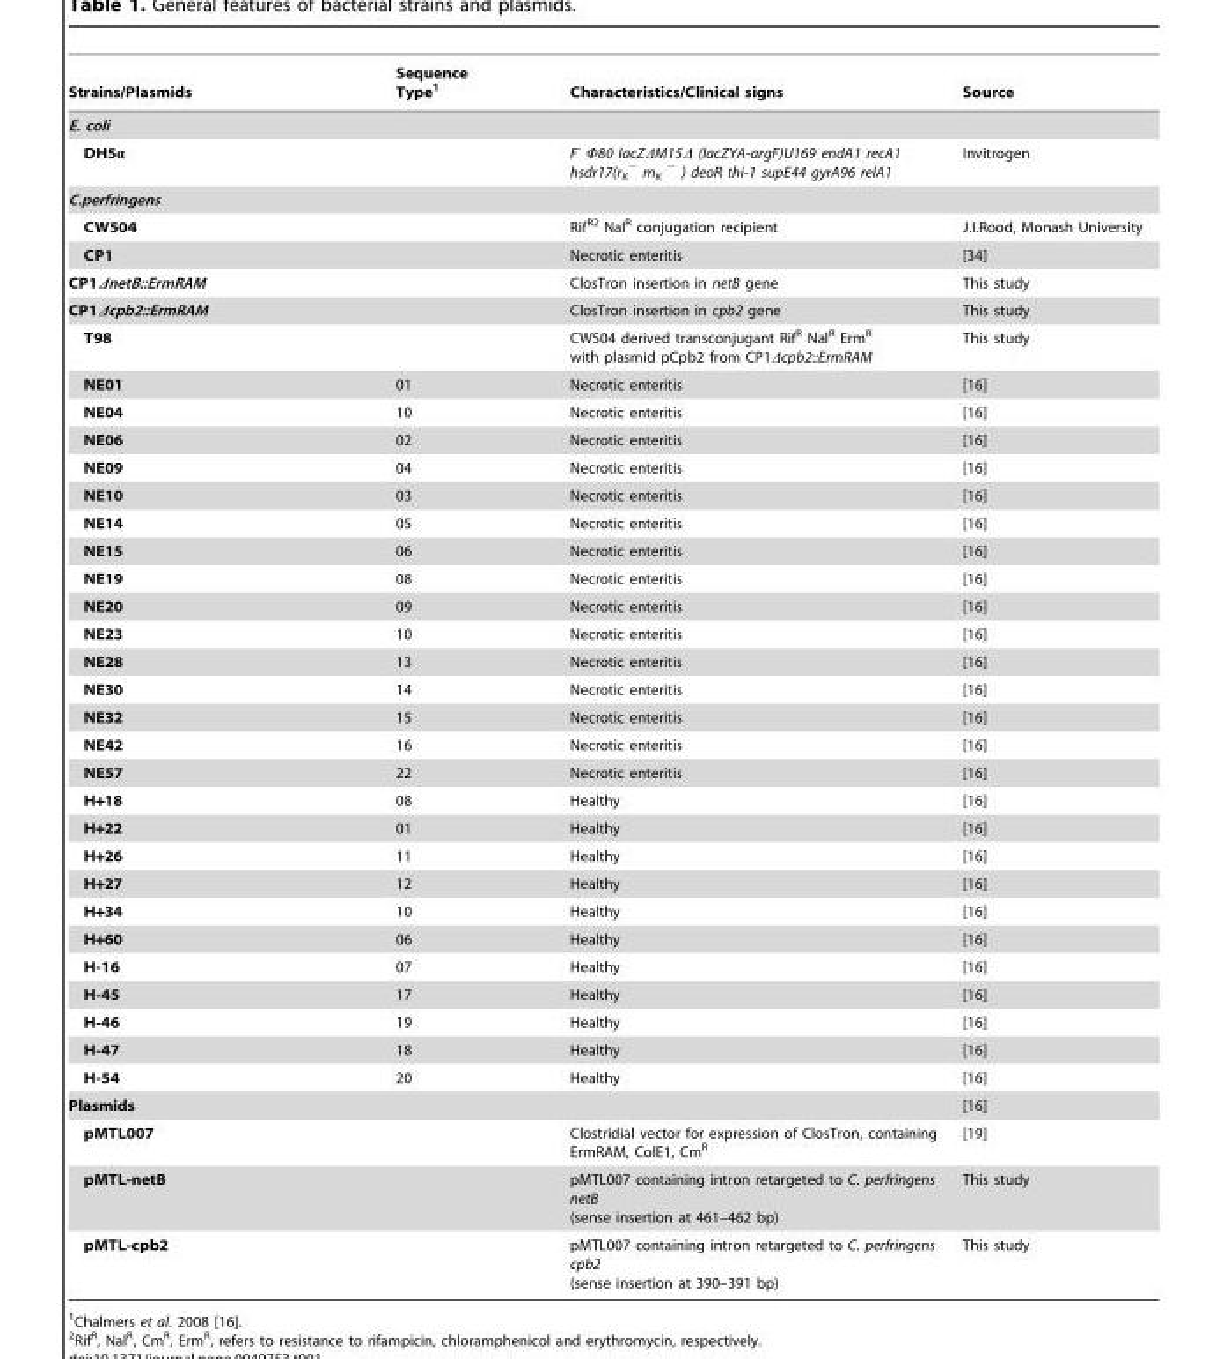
<table><thead><tr><td>Strains/Plasmids</td><td>Sequence Type<sup>1</sup></td><td>Characteristics/Clinical signs</td><td>Source</td></tr></thead><tbody><tr><td colspan="4">E. coli</td></tr><tr><td>DH5α</td><td></td><td>F<sup>-</sup> Φ80 lacZΔM15Δ (lacZYA-argF)U169 endA1 recA1 hsdr17(r<sub>K</sub> <sup>−</sup> m<sub>K</sub> <sup>−</sup> ) deoR thi-1 supE44 gyrA96 relA1</td><td>Invitrogen</td></tr><tr><td colspan="4">C.perfringens</td></tr><tr><td>CW504</td><td></td><td>Rif<sup>R2</sup> Nal<sup>R</sup> conjugation recipient</td><td>J.I.Rood, Monash University</td></tr><tr><td>CP1</td><td></td><td>Necrotic enteritis</td><td>[34]</td></tr><tr><td>CP1ΔnetB::ErmRAM</td><td></td><td>ClosTron insertion in netB gene</td><td>This study</td></tr><tr><td>CP1Δcpb2::ErmRAM</td><td></td><td>ClosTron insertion in cpb2 gene</td><td>This study</td></tr><tr><td>T98</td><td></td><td>CW504 derived transconjugant Rif<sup>R</sup> Nal<sup>R</sup> Erm<sup>R</sup> with plasmid pCpb2 from CP1Δcpb2::ErmRAM</td><td>This study</td></tr><tr><td>NE01</td><td>01</td><td>Necrotic enteritis</td><td>[16]</td></tr><tr><td>NE04</td><td>10</td><td>Necrotic enteritis</td><td>[16]</td></tr><tr><td>NE06</td><td>02</td><td>Necrotic enteritis</td><td>[16]</td></tr><tr><td>NE09</td><td>04</td><td>Necrotic enteritis</td><td>[16]</td></tr><tr><td>NE10</td><td>03</td><td>Necrotic enteritis</td><td>[16]</td></tr><tr><td>NE14</td><td>05</td><td>Necrotic enteritis</td><td>[16]</td></tr><tr><td>NE15</td><td>06</td><td>Necrotic enteritis</td><td>[16]</td></tr><tr><td>NE19</td><td>08</td><td>Necrotic enteritis</td><td>[16]</td></tr><tr><td>NE20</td><td>09</td><td>Necrotic enteritis</td><td>[16]</td></tr><tr><td>NE23</td><td>10</td><td>Necrotic enteritis</td><td>[16]</td></tr><tr><td>NE28</td><td>13</td><td>Necrotic enteritis</td><td>[16]</td></tr><tr><td>NE30</td><td>14</td><td>Necrotic enteritis</td><td>[16]</td></tr><tr><td>NE32</td><td>15</td><td>Necrotic enteritis</td><td>[16]</td></tr><tr><td>NE42</td><td>16</td><td>Necrotic enteritis</td><td>[16]</td></tr><tr><td>NE57</td><td>22</td><td>Necrotic enteritis</td><td>[16]</td></tr><tr><td>H+18</td><td>08</td><td>Healthy</td><td>[16]</td></tr><tr><td>H+22</td><td>01</td><td>Healthy</td><td>[16]</td></tr><tr><td>H+26</td><td>11</td><td>Healthy</td><td>[16]</td></tr><tr><td>H+27</td><td>12</td><td>Healthy</td><td>[16]</td></tr><tr><td>H+34</td><td>10</td><td>Healthy</td><td>[16]</td></tr><tr><td>H+60</td><td>06</td><td>Healthy</td><td>[16]</td></tr><tr><td>H-16</td><td>07</td><td>Healthy</td><td>[16]</td></tr><tr><td>H-45</td><td>17</td><td>Healthy</td><td>[16]</td></tr><tr><td>H-46</td><td>19</td><td>Healthy</td><td>[16]</td></tr><tr><td>H-47</td><td>18</td><td>Healthy</td><td>[16]</td></tr><tr><td>H-54</td><td>20</td><td>Healthy</td><td>[16]</td></tr><tr><td>Plasmids</td><td></td><td></td><td>[16]</td></tr><tr><td>pMTL007</td><td></td><td>Clostridial vector for expression of ClosTron, containing ErmRAM, ColE1, Cm<sup>R</sup></td><td>[19]</td></tr><tr><td>pMTL-netB</td><td></td><td>pMTL007 containing intron retargeted to C. perfringens netB (sense insertion at 461–462 bp)</td><td>This study</td></tr><tr><td>pMTL-cpb2</td><td></td><td>pMTL007 containing intron retargeted to C. perfringens cpb2 (sense insertion at 390–391 bp)</td><td>This study</td></tr></tbody></table>